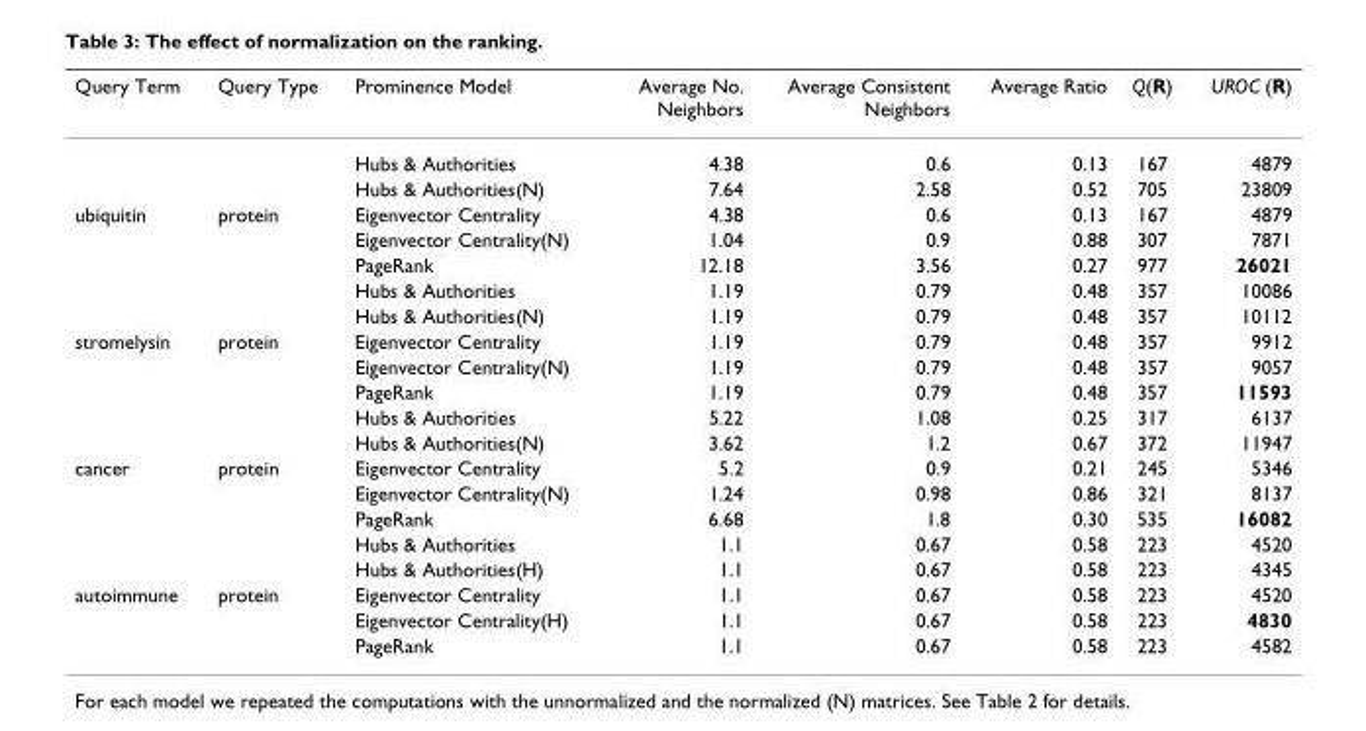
<table><thead><tr><td>Query Term</td><td>Query Type</td><td>Prominence Model</td><td>Average No. Neighbors</td><td>Average Consistent Neighbors</td><td>Average Ratio</td><td>Q(R)</td><td>UROC (R)</td></tr></thead><tbody><tr><td></td><td></td><td>Hubs &amp; Authorities</td><td>4.38</td><td>0.6</td><td>0.13</td><td>167</td><td>4879</td></tr><tr><td></td><td></td><td>Hubs &amp; Authorities(N)</td><td>7.64</td><td>2.58</td><td>0.52</td><td>705</td><td>23809</td></tr><tr><td rowspan="5">ubiquitin</td><td>protein</td><td>Eigenvector Centrality</td><td>4.38</td><td>0.6</td><td>0.13</td><td>167</td><td>4879</td></tr><tr><td></td><td>Eigenvector Centrality(N)</td><td>1.04</td><td>0.9</td><td>0.88</td><td>307</td><td>7871</td></tr><tr><td></td><td>PageRank</td><td>12.18</td><td>3.56</td><td>0.27</td><td>977</td><td>26021</td></tr><tr><td></td><td>Hubs &amp; Authorities</td><td>1.19</td><td>0.79</td><td>0.48</td><td>357</td><td>10086</td></tr><tr><td></td><td>Hubs &amp; Authorities(N)</td><td>1.19</td><td>0.79</td><td>0.48</td><td>357</td><td>10112</td></tr><tr><td rowspan="5">stromelysin</td><td>protein</td><td>Eigenvector Centrality</td><td>1.19</td><td>0.79</td><td>0.48</td><td>357</td><td>9912</td></tr><tr><td></td><td>Eigenvector Centrality(N)</td><td>1.19</td><td>0.79</td><td>0.48</td><td>357</td><td>9057</td></tr><tr><td></td><td>PageRank</td><td>1.19</td><td>0.79</td><td>0.48</td><td>357</td><td>11593</td></tr><tr><td></td><td>Hubs &amp; Authorities</td><td>5.22</td><td>1.08</td><td>0.25</td><td>317</td><td>6137</td></tr><tr><td></td><td>Hubs &amp; Authorities(N)</td><td>3.62</td><td>1.2</td><td>0.67</td><td>372</td><td>11947</td></tr><tr><td rowspan="5">cancer</td><td>protein</td><td>Eigenvector Centrality</td><td>5.2</td><td>0.9</td><td>0.21</td><td>245</td><td>5346</td></tr><tr><td></td><td>Eigenvector Centrality(N)</td><td>1.24</td><td>0.98</td><td>0.86</td><td>321</td><td>8137</td></tr><tr><td></td><td>PageRank</td><td>6.68</td><td>1.8</td><td>0.30</td><td>535</td><td>16082</td></tr><tr><td></td><td>Hubs &amp; Authorities</td><td>1.1</td><td>0.67</td><td>0.58</td><td>223</td><td>4520</td></tr><tr><td></td><td>Hubs &amp; Authorities(H)</td><td>1.1</td><td>0.67</td><td>0.58</td><td>223</td><td>4345</td></tr><tr><td rowspan="3">autoimmune</td><td>protein</td><td>Eigenvector Centrality</td><td>1.1</td><td>0.67</td><td>0.58</td><td>223</td><td>4520</td></tr><tr><td></td><td>Eigenvector Centrality(H)</td><td>1.1</td><td>0.67</td><td>0.58</td><td>223</td><td>4830</td></tr><tr><td></td><td>PageRank</td><td>1.1</td><td>0.67</td><td>0.58</td><td>223</td><td>4582</td></tr></tbody></table>